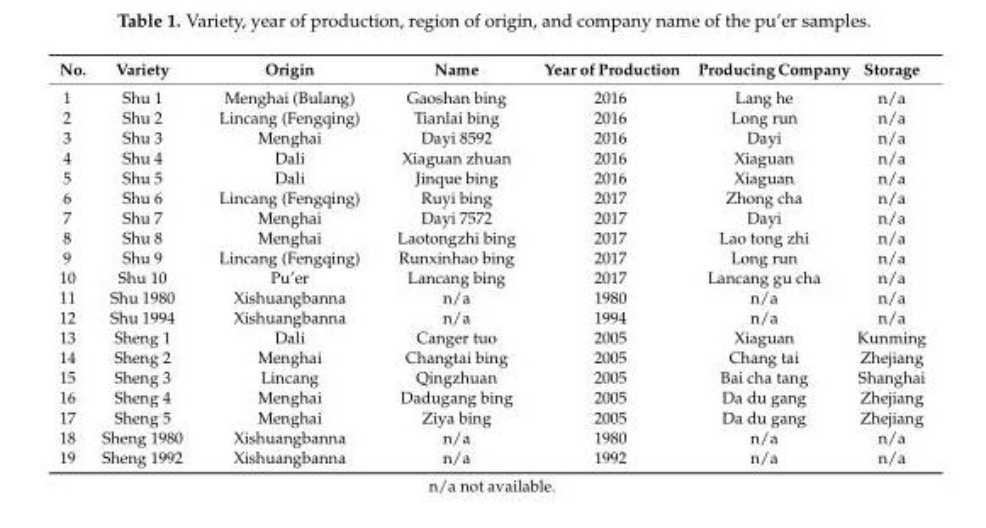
<table><thead><tr><td>No.</td><td>Variety</td><td>Origin</td><td>Name</td><td>Year of Production</td><td>Producing Company</td><td>Storage</td></tr></thead><tbody><tr><td>1</td><td>Shu 1</td><td>Menghai (Bulang)</td><td>Gaoshan bing</td><td>2016</td><td>Lang he</td><td>n/a</td></tr><tr><td>2</td><td>Shu 2</td><td>Lincang (Fengqing)</td><td>Tianlai bing</td><td>2016</td><td>Long run</td><td>n/a</td></tr><tr><td>3</td><td>Shu 3</td><td>Menghai</td><td>Dayi 8592</td><td>2016</td><td>Dayi</td><td>n/a</td></tr><tr><td>4</td><td>Shu 4</td><td>Dali</td><td>Xiaguan zhuan</td><td>2016</td><td>Xiaguan</td><td>n/a</td></tr><tr><td>5</td><td>Shu 5</td><td>Dali</td><td>Jinque bing</td><td>2016</td><td>Xiaguan</td><td>n/a</td></tr><tr><td>6</td><td>Shu 6</td><td>Lincang (Fengqing)</td><td>Ruyi bing</td><td>2017</td><td>Zhong cha</td><td>n/a</td></tr><tr><td>7</td><td>Shu 7</td><td>Menghai</td><td>Dayi 7572</td><td>2017</td><td>Dayi</td><td>n/a</td></tr><tr><td>8</td><td>Shu 8</td><td>Menghai</td><td>Laotongzhi bing</td><td>2017</td><td>Lao tong zhi</td><td>n/a</td></tr><tr><td>9</td><td>Shu 9</td><td>Lincang (Fengqing)</td><td>Runxinhao bing</td><td>2017</td><td>Long run</td><td>n/a</td></tr><tr><td>10</td><td>Shu 10</td><td>Pu’er</td><td>Lancang bing</td><td>2017</td><td>Lancang gu cha</td><td>n/a</td></tr><tr><td>11</td><td>Shu 1980</td><td>Xishuangbanna</td><td>n/a</td><td>1980</td><td>n/a</td><td>n/a</td></tr><tr><td>12</td><td>Shu 1994</td><td>Xishuangbanna</td><td>n/a</td><td>1994</td><td>n/a</td><td>n/a</td></tr><tr><td>13</td><td>Sheng 1</td><td>Dali</td><td>Canger tuo</td><td>2005</td><td>Xiaguan</td><td>Kunming</td></tr><tr><td>14</td><td>Sheng 2</td><td>Menghai</td><td>Changtai bing</td><td>2005</td><td>Chang tai</td><td>Zhejiang</td></tr><tr><td>15</td><td>Sheng 3</td><td>Lincang</td><td>Qingzhuan</td><td>2005</td><td>Bai cha tang</td><td>Shanghai</td></tr><tr><td>16</td><td>Sheng 4</td><td>Menghai</td><td>Dadugang bing</td><td>2005</td><td>Da du gang</td><td>Zhejiang</td></tr><tr><td>17</td><td>Sheng 5</td><td>Menghai</td><td>Ziya bing</td><td>2005</td><td>Da du gang</td><td>Zhejiang</td></tr><tr><td>18</td><td>Sheng 1980</td><td>Xishuangbanna</td><td>n/a</td><td>1980</td><td>n/a</td><td>n/a</td></tr><tr><td>19</td><td>Sheng 1992</td><td>Xishuangbanna</td><td>n/a</td><td>1992</td><td>n/a</td><td>n/a</td></tr></tbody></table>